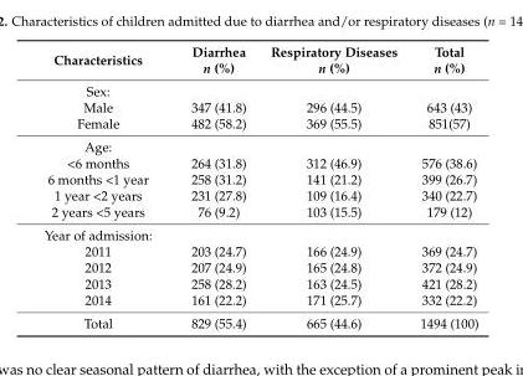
<table><thead><tr><td>Characteristics</td><td>Diarrhea n (%)</td><td>Respiratory Diseases n (%)</td><td>Total n (%)</td></tr></thead><tbody><tr><td colspan="4">Sex:</td></tr><tr><td>Male</td><td>347 (41.8)</td><td>296 (44.5)</td><td>643 (43)</td></tr><tr><td>Female</td><td>482 (58.2)</td><td>369 (55.5)</td><td>851(57)</td></tr><tr><td colspan="4">Age:</td></tr><tr><td>&lt;6 months</td><td>264 (31.8)</td><td>312 (46.9)</td><td>576 (38.6)</td></tr><tr><td>6 months &lt;1 year</td><td>258 (31.2)</td><td>141 (21.2)</td><td>399 (26.7)</td></tr><tr><td>1 year &lt;2 years</td><td>231 (27.8)</td><td>109 (16.4)</td><td>340 (22.7)</td></tr><tr><td>2 years &lt;5 years</td><td>76 (9.2)</td><td>103 (15.5)</td><td>179 (12)</td></tr><tr><td colspan="4">Year of admission:</td></tr><tr><td>2011</td><td>203 (24.7)</td><td>166 (24.9)</td><td>369 (24.7)</td></tr><tr><td>2012</td><td>207 (24.9)</td><td>165 (24.8)</td><td>372 (24.9)</td></tr><tr><td>2013</td><td>258 (28.2)</td><td>163 (24.5)</td><td>421 (28.2)</td></tr><tr><td>2014</td><td>161 (22.2)</td><td>171 (25.7)</td><td>332 (22.2)</td></tr><tr><td>Total</td><td>829 (55.4)</td><td>665 (44.6)</td><td>1494 (100)</td></tr></tbody></table>